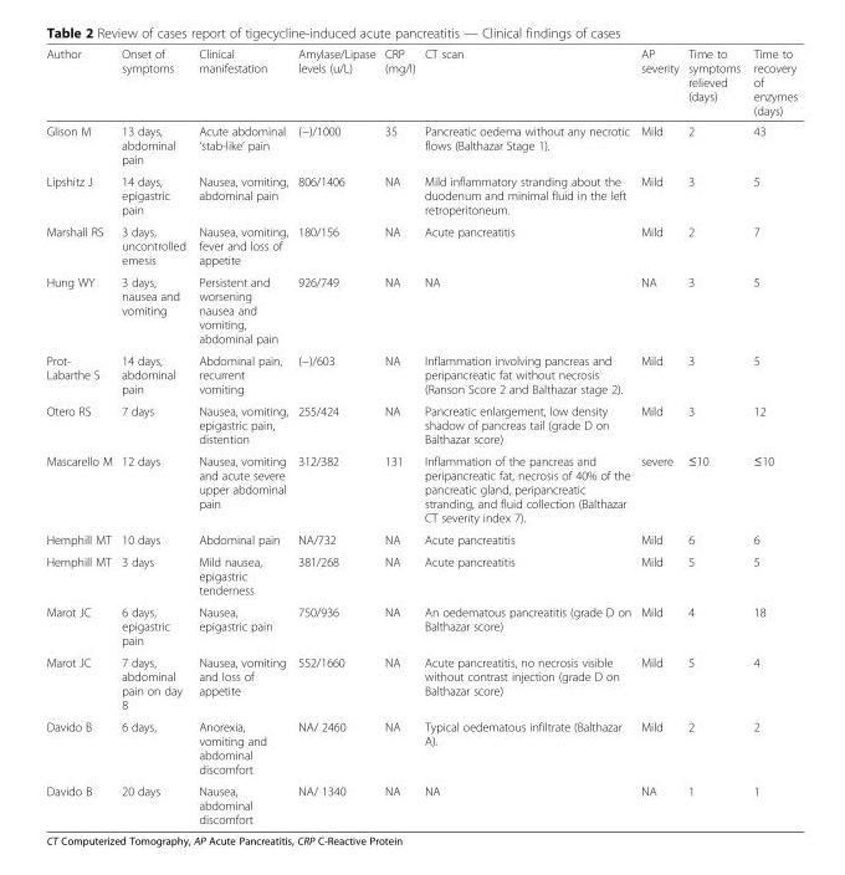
<table><thead><tr><td>Author</td><td>Onset of symptoms</td><td>Clinical manifestation</td><td>Amylase/Lipase levels (u/L)</td><td>CRP (mg/l)</td><td>CT scan</td><td>AP severity</td><td>Time to symptoms relieved (days)</td><td>Time to recovery of enzymes (days)</td></tr></thead><tbody><tr><td>Glison M</td><td>13 days, abdominal pain</td><td>Acute abdominal ‘stab-like’ pain</td><td>(−)/1000</td><td>35</td><td>Pancreatic oedema without any necrotic flows (Balthazar Stage 1).</td><td>Mild</td><td>2</td><td>43</td></tr><tr><td>Lipshitz J</td><td>14 days, epigastric pain</td><td>Nausea, vomiting, abdominal pain</td><td>806/1406</td><td>NA</td><td>Mild inflammatory stranding about the duodenum and minimal fluid in the left retroperitoneum.</td><td>Mild</td><td>3</td><td>5</td></tr><tr><td>Marshall RS</td><td>3 days, uncontrolled emesis</td><td>Nausea, vomiting, fever and loss of appetite</td><td>180/156</td><td>NA</td><td>Acute pancreatitis</td><td>Mild</td><td>2</td><td>7</td></tr><tr><td>Hung WY</td><td>3 days, nausea and vomiting</td><td>Persistent and worsening nausea and vomiting, abdominal pain</td><td>926/749</td><td>NA</td><td>NA</td><td>NA</td><td>3</td><td>5</td></tr><tr><td>Prot- Labarthe S</td><td>14 days, abdominal pain</td><td>Abdominal pain, recurrent vomiting</td><td>(−)/603</td><td>NA</td><td>Inflammation involving pancreas and peripancreatic fat without necrosis (Ranson Score 2 and Balthazar stage 2).</td><td>Mild</td><td>3</td><td>5</td></tr><tr><td>Otero RS</td><td>7 days</td><td>Nausea, vomiting, epigastric pain, distention</td><td>255/424</td><td>NA</td><td>Pancreatic enlargement, low density shadow of pancreas tail (grade D on Balthazar score)</td><td>Mild</td><td>3</td><td>12</td></tr><tr><td>Mascarello M</td><td>12 days</td><td>Nausea, vomiting and acute severe upper abdominal pain</td><td>312/382</td><td>131</td><td>Inflammation of the pancreas and peripancreatic fat, necrosis of 40% of the pancreatic gland, peripancreatic stranding, and fluid collection (Balthazar CT severity index 7).</td><td>severe</td><td>≤10</td><td>≤10</td></tr><tr><td>Hemphill MT</td><td>10 days</td><td>Abdominal pain</td><td>NA/732</td><td>NA</td><td>Acute pancreatitis</td><td>Mild</td><td>6</td><td>6</td></tr><tr><td>Hemphill MT</td><td>3 days</td><td>Mild nausea, epigastric tenderness</td><td>381/268</td><td>NA</td><td>Acute pancreatitis</td><td>Mild</td><td>5</td><td>5</td></tr><tr><td>Marot JC</td><td>6 days, epigastric pain</td><td>Nausea, epigastric pain</td><td>750/936</td><td>NA</td><td>An oedematous pancreatitis (grade D on Balthazar score)</td><td>Mild</td><td>4</td><td>18</td></tr><tr><td>Marot JC</td><td>7 days, abdominal pain on day 8</td><td>Nausea, vomiting and loss of appetite</td><td>552/1660</td><td>NA</td><td>Acute pancreatitis, no necrosis visible without contrast injection (grade D on Balthazar score)</td><td>Mild</td><td>5</td><td>4</td></tr><tr><td>Davido B</td><td>6 days,</td><td>Anorexia, vomiting and abdominal discomfort</td><td>NA/ 2460</td><td>NA</td><td>Typical oedematous infiltrate (Balthazar A).</td><td>Mild</td><td>2</td><td>2</td></tr><tr><td>Davido B</td><td>20 days</td><td>Nausea, abdominal discomfort</td><td>NA/ 1340</td><td>NA</td><td>NA</td><td>NA</td><td>1</td><td>1</td></tr></tbody></table>